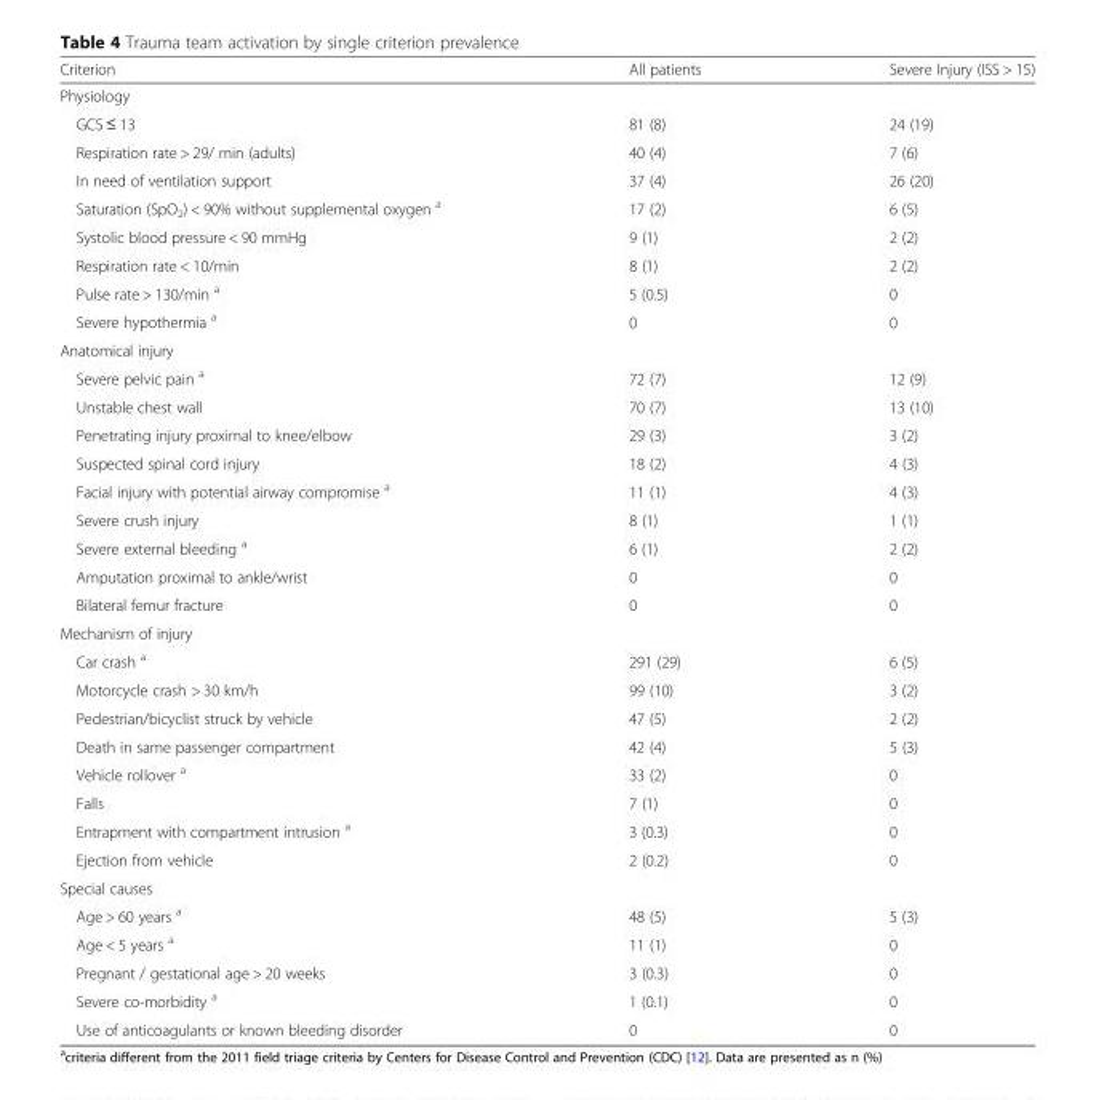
<table><thead><tr><td>Criterion</td><td>All patients</td><td>Severe Injury (ISS &gt; 15)</td></tr></thead><tbody><tr><td colspan="3">Physiology</td></tr><tr><td>GCS ≤ 13</td><td>81 (8)</td><td>24 (19)</td></tr><tr><td>Respiration rate &gt; 29/ min (adults)</td><td>40 (4)</td><td>7 (6)</td></tr><tr><td>In need of ventilation support</td><td>37 (4)</td><td>26 (20)</td></tr><tr><td>Saturation (SpO<sub>2</sub>) &lt; 90% without supplemental oxygen <sup>a</sup></td><td>17 (2)</td><td>6 (5)</td></tr><tr><td>Systolic blood pressure &lt; 90 mmHg</td><td>9 (1)</td><td>2 (2)</td></tr><tr><td>Respiration rate &lt; 10/min</td><td>8 (1)</td><td>2 (2)</td></tr><tr><td>Pulse rate &gt; 130/min <sup>a</sup></td><td>5 (0.5)</td><td>0</td></tr><tr><td>Severe hypothermia <sup>a</sup></td><td>0</td><td>0</td></tr><tr><td colspan="3">Anatomical injury</td></tr><tr><td>Severe pelvic pain <sup>a</sup></td><td>72 (7)</td><td>12 (9)</td></tr><tr><td>Unstable chest wall</td><td>70 (7)</td><td>13 (10)</td></tr><tr><td>Penetrating injury proximal to knee/elbow</td><td>29 (3)</td><td>3 (2)</td></tr><tr><td>Suspected spinal cord injury</td><td>18 (2)</td><td>4 (3)</td></tr><tr><td>Facial injury with potential airway compromise <sup>a</sup></td><td>11 (1)</td><td>4 (3)</td></tr><tr><td>Severe crush injury</td><td>8 (1)</td><td>1 (1)</td></tr><tr><td>Severe external bleeding <sup>a</sup></td><td>6 (1)</td><td>2 (2)</td></tr><tr><td>Amputation proximal to ankle/wrist</td><td>0</td><td>0</td></tr><tr><td>Bilateral femur fracture</td><td>0</td><td>0</td></tr><tr><td colspan="3">Mechanism of injury</td></tr><tr><td>Car crash <sup>a</sup></td><td>291 (29)</td><td>6 (5)</td></tr><tr><td>Motorcycle crash &gt; 30 km/h</td><td>99 (10)</td><td>3 (2)</td></tr><tr><td>Pedestrian/bicyclist struck by vehicle</td><td>47 (5)</td><td>2 (2)</td></tr><tr><td>Death in same passenger compartment</td><td>42 (4)</td><td>5 (3)</td></tr><tr><td>Vehicle rollover <sup>a</sup></td><td>33 (2)</td><td>0</td></tr><tr><td>Falls</td><td>7 (1)</td><td>0</td></tr><tr><td>Entrapment with compartment intrusion <sup>a</sup></td><td>3 (0.3)</td><td>0</td></tr><tr><td>Ejection from vehicle</td><td>2 (0.2)</td><td>0</td></tr><tr><td colspan="3">Special causes</td></tr><tr><td>Age &gt; 60 years <sup>a</sup></td><td>48 (5)</td><td>5 (3)</td></tr><tr><td>Age &lt; 5 years <sup>a</sup></td><td>11 (1)</td><td>0</td></tr><tr><td>Pregnant / gestational age &gt; 20 weeks</td><td>3 (0.3)</td><td>0</td></tr><tr><td>Severe co-morbidity <sup>a</sup></td><td>1 (0.1)</td><td>0</td></tr><tr><td>Use of anticoagulants or known bleeding disorder</td><td>0</td><td>0</td></tr></tbody></table>